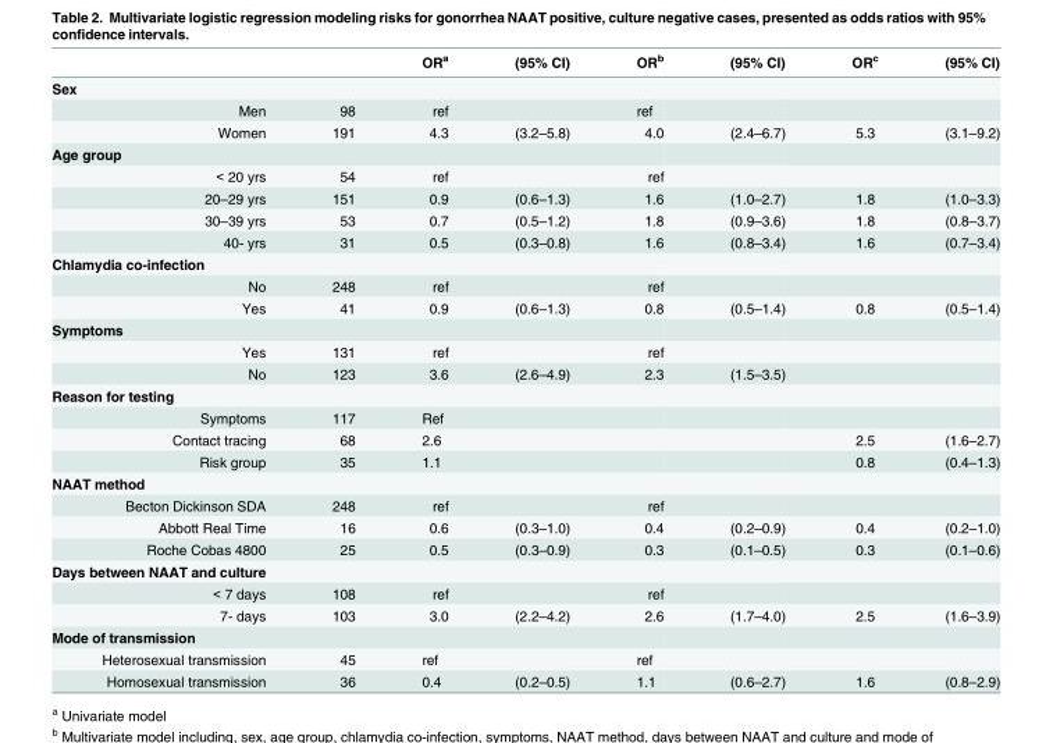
<table><thead><tr><td></td><td></td><td>OR<sup>a</sup></td><td>(95% CI)</td><td>OR<sup>b</sup></td><td>(95% CI)</td><td>OR<sup>c</sup></td><td>(95% CI)</td></tr></thead><tbody><tr><td colspan="8">Sex</td></tr><tr><td>Men</td><td>98</td><td>ref</td><td></td><td>ref</td><td></td><td></td><td></td></tr><tr><td>Women</td><td>191</td><td>4.3</td><td>(3.2–5.8)</td><td>4.0</td><td>(2.4–6.7)</td><td>5.3</td><td>(3.1–9.2)</td></tr><tr><td colspan="8">Age group</td></tr><tr><td>&lt; 20 yrs</td><td>54</td><td>ref</td><td></td><td>ref</td><td></td><td></td><td></td></tr><tr><td>20–29 yrs</td><td>151</td><td>0.9</td><td>(0.6–1.3)</td><td>1.6</td><td>(1.0–2.7)</td><td>1.8</td><td>(1.0–3.3)</td></tr><tr><td>30–39 yrs</td><td>53</td><td>0.7</td><td>(0.5–1.2)</td><td>1.8</td><td>(0.9–3.6)</td><td>1.8</td><td>(0.8–3.7)</td></tr><tr><td>40- yrs</td><td>31</td><td>0.5</td><td>(0.3–0.8)</td><td>1.6</td><td>(0.8–3.4)</td><td>1.6</td><td>(0.7–3.4)</td></tr><tr><td colspan="8">Chlamydia co-infection</td></tr><tr><td>No</td><td>248</td><td>ref</td><td></td><td>ref</td><td></td><td></td><td></td></tr><tr><td>Yes</td><td>41</td><td>0.9</td><td>(0.6–1.3)</td><td>0.8</td><td>(0.5–1.4)</td><td>0.8</td><td>(0.5–1.4)</td></tr><tr><td colspan="8">Symptoms</td></tr><tr><td>Yes</td><td>131</td><td>ref</td><td></td><td>ref</td><td></td><td></td><td></td></tr><tr><td>No</td><td>123</td><td>3.6</td><td>(2.6–4.9)</td><td>2.3</td><td>(1.5–3.5)</td><td></td><td></td></tr><tr><td colspan="8">Reason for testing</td></tr><tr><td>Symptoms</td><td>117</td><td>Ref</td><td></td><td></td><td></td><td></td><td></td></tr><tr><td>Contact tracing</td><td>68</td><td>2.6</td><td></td><td></td><td></td><td>2.5</td><td>(1.6–2.7)</td></tr><tr><td>Risk group</td><td>35</td><td>1.1</td><td></td><td></td><td></td><td>0.8</td><td>(0.4–1.3)</td></tr><tr><td colspan="8">NAAT method</td></tr><tr><td>Becton Dickinson SDA</td><td>248</td><td>ref</td><td></td><td>ref</td><td></td><td></td><td></td></tr><tr><td>Abbott Real Time</td><td>16</td><td>0.6</td><td>(0.3–1.0)</td><td>0.4</td><td>(0.2–0.9)</td><td>0.4</td><td>(0.2–1.0)</td></tr><tr><td>Roche Cobas 4800</td><td>25</td><td>0.5</td><td>(0.3–0.9)</td><td>0.3</td><td>(0.1–0.5)</td><td>0.3</td><td>(0.1–0.6)</td></tr><tr><td colspan="8">Days between NAAT and culture</td></tr><tr><td>&lt; 7 days</td><td>108</td><td>ref</td><td></td><td>ref</td><td></td><td></td><td></td></tr><tr><td>7- days</td><td>103</td><td>3.0</td><td>(2.2–4.2)</td><td>2.6</td><td>(1.7–4.0)</td><td>2.5</td><td>(1.6–3.9)</td></tr><tr><td colspan="8">Mode of transmission</td></tr><tr><td>Heterosexual transmission</td><td>45</td><td>ref</td><td></td><td>ref</td><td></td><td></td><td></td></tr><tr><td>Homosexual transmission</td><td>36</td><td>0.4</td><td>(0.2–0.5)</td><td>1.1</td><td>(0.6–2.7)</td><td>1.6</td><td>(0.8–2.9)</td></tr></tbody></table>